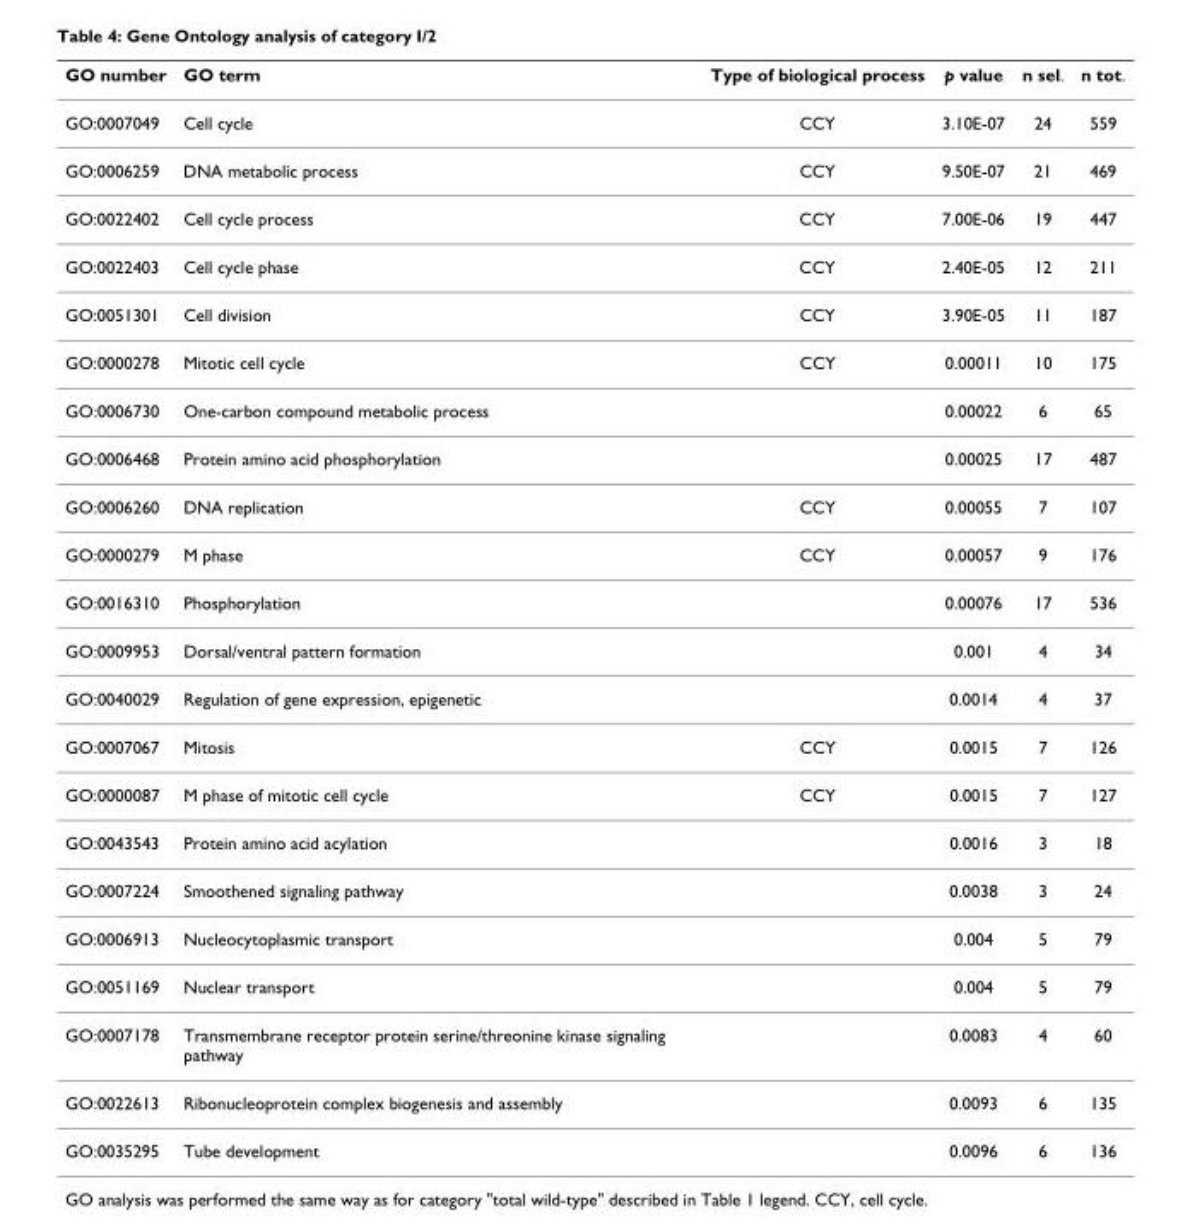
<table><thead><tr><td>GO number</td><td>GO term</td><td>Type of biological process</td><td>p value</td><td>n sel.</td><td>n tot.</td></tr></thead><tbody><tr><td>GO:0007049</td><td>Cell cycle</td><td>CCY</td><td>3.10E-07</td><td>24</td><td>559</td></tr><tr><td>GO:0006259</td><td>DNA metabolic process</td><td>CCY</td><td>9.50E-07</td><td>21</td><td>469</td></tr><tr><td>GO:0022402</td><td>Cell cycle process</td><td>CCY</td><td>7.00E-06</td><td>19</td><td>447</td></tr><tr><td>GO:0022403</td><td>Cell cycle phase</td><td>CCY</td><td>2.40E-05</td><td>12</td><td>211</td></tr><tr><td>GO:0051301</td><td>Cell division</td><td>CCY</td><td>3.90E-05</td><td>11</td><td>187</td></tr><tr><td>GO:0000278</td><td>Mitotic cell cycle</td><td>CCY</td><td>0.00011</td><td>10</td><td>175</td></tr><tr><td>GO:0006730</td><td>One-carbon compound metabolic process</td><td></td><td>0.00022</td><td>6</td><td>65</td></tr><tr><td>GO:0006468</td><td>Protein amino acid phosphorylation</td><td></td><td>0.00025</td><td>17</td><td>487</td></tr><tr><td>GO:0006260</td><td>DNA replication</td><td>CCY</td><td>0.00055</td><td>7</td><td>107</td></tr><tr><td>GO:0000279</td><td>M phase</td><td>CCY</td><td>0.00057</td><td>9</td><td>176</td></tr><tr><td>GO:0016310</td><td>Phosphorylation</td><td></td><td>0.00076</td><td>17</td><td>536</td></tr><tr><td>GO:0009953</td><td>Dorsal/ventral pattern formation</td><td></td><td>0.001</td><td>4</td><td>34</td></tr><tr><td>GO:0040029</td><td>Regulation of gene expression, epigenetic</td><td></td><td>0.0014</td><td>4</td><td>37</td></tr><tr><td>GO:0007067</td><td>Mitosis</td><td>CCY</td><td>0.0015</td><td>7</td><td>126</td></tr><tr><td>GO:0000087</td><td>M phase of mitotic cell cycle</td><td>CCY</td><td>0.0015</td><td>7</td><td>127</td></tr><tr><td>GO:0043543</td><td>Protein amino acid acylation</td><td></td><td>0.0016</td><td>3</td><td>18</td></tr><tr><td>GO:0007224</td><td>Smoothened signaling pathway</td><td></td><td>0.0038</td><td>3</td><td>24</td></tr><tr><td>GO:0006913</td><td>Nucleocytoplasmic transport</td><td></td><td>0.004</td><td>5</td><td>79</td></tr><tr><td>GO:0051169</td><td>Nuclear transport</td><td></td><td>0.004</td><td>5</td><td>79</td></tr><tr><td>GO:0007178</td><td>Transmembrane receptor protein serine/threonine kinase signaling pathway</td><td></td><td>0.0083</td><td>4</td><td>60</td></tr><tr><td>GO:0022613</td><td>Ribonucleoprotein complex biogenesis and assembly</td><td></td><td>0.0093</td><td>6</td><td>135</td></tr><tr><td>GO:0035295</td><td>Tube development</td><td></td><td>0.0096</td><td>6</td><td>136</td></tr></tbody></table>